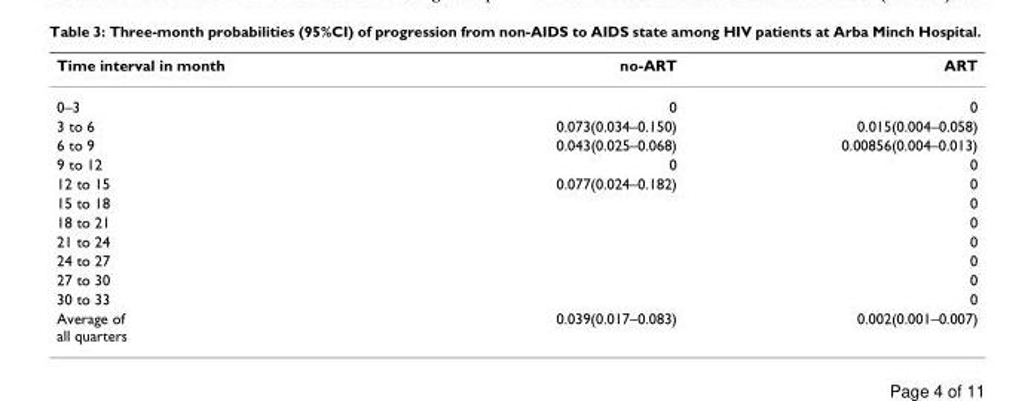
<table><thead><tr><td>Time interval in month</td><td>no-ART</td><td>ART</td></tr></thead><tbody><tr><td>0–3</td><td>0</td><td>0</td></tr><tr><td>3 to 6</td><td>0.073(0.034–0.150)</td><td>0.015(0.004–0.058)</td></tr><tr><td>6 to 9</td><td>0.043(0.025–0.068)</td><td>0.00856(0.004–0.013)</td></tr><tr><td>9 to 12</td><td>0</td><td>0</td></tr><tr><td>12 to 15</td><td>0.077(0.024–0.182)</td><td>0</td></tr><tr><td>15 to 18</td><td></td><td>0</td></tr><tr><td>18 to 21</td><td></td><td>0</td></tr><tr><td>21 to 24</td><td></td><td>0</td></tr><tr><td>24 to 27</td><td></td><td>0</td></tr><tr><td>27 to 30</td><td></td><td>0</td></tr><tr><td>30 to 33</td><td></td><td>0</td></tr><tr><td>Average of all quarters</td><td>0.039(0.017–0.083)</td><td>0.002(0.001–0.007)</td></tr></tbody></table>